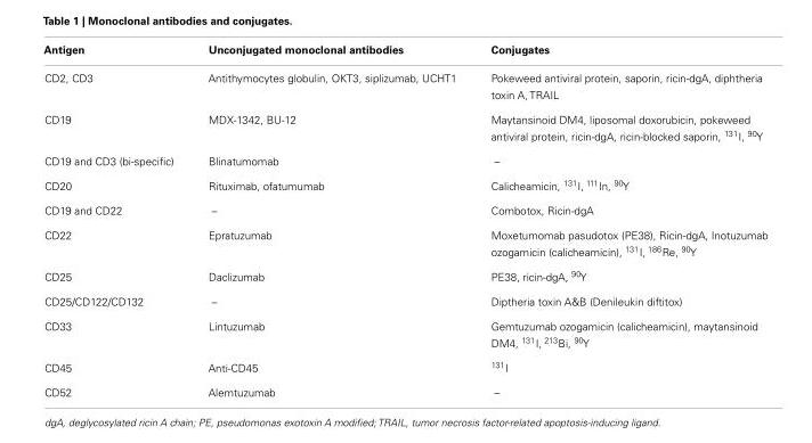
<table><thead><tr><td>Antigen</td><td>Unconjugated monoclonal antibodies</td><td>Conjugates</td></tr></thead><tbody><tr><td>CD2, CD3</td><td>Antithymocytes globulin, OKT3, siplizumab, UCHT1</td><td>Pokeweed antiviral protein, saporin, ricin-dgA, diphtheria toxin A, TRAIL</td></tr><tr><td>CD19</td><td>MDX-1342, BU-12</td><td>Maytansinoid DM4, liposomal doxorubicin, pokeweed antiviral protein, ricin-dgA, ricin-blocked saporin, <sup>131</sup>I, <sup>90</sup>Y</td></tr><tr><td>CD19 and CD3 (bi-specific)</td><td>Blinatumomab</td><td>–</td></tr><tr><td>CD20</td><td>Rituximab, ofatumumab</td><td>Calicheamicin, <sup>131</sup>I, <sup>111</sup>In, <sup>90</sup>Y</td></tr><tr><td>CD19 and CD22</td><td>–</td><td>Combotox, Ricin-dgA</td></tr><tr><td>CD22</td><td>Epratuzumab</td><td>Moxetumomab pasudotox (PE38), Ricin-dgA, Inotuzumab ozogamicin (calicheamicin), <sup>131</sup>I, <sup>186</sup>Re, <sup>90</sup>Y</td></tr><tr><td>CD25</td><td>Daclizumab</td><td>PE38, ricin-dgA, <sup>90</sup>Y</td></tr><tr><td>CD25/CD122/CD132</td><td>–</td><td>Diptheria toxin A&amp;B (Denileukin diftitox)</td></tr><tr><td>CD33</td><td>Lintuzumab</td><td>Gemtuzumab ozogamicin (calicheamicin), maytansinoid DM4, <sup>131</sup>I, <sup>213</sup>Bi, <sup>90</sup>Y</td></tr><tr><td>CD45</td><td>Anti-CD45</td><td><sup>131</sup>I</td></tr><tr><td>CD52</td><td>Alemtuzumab</td><td>–</td></tr></tbody></table>